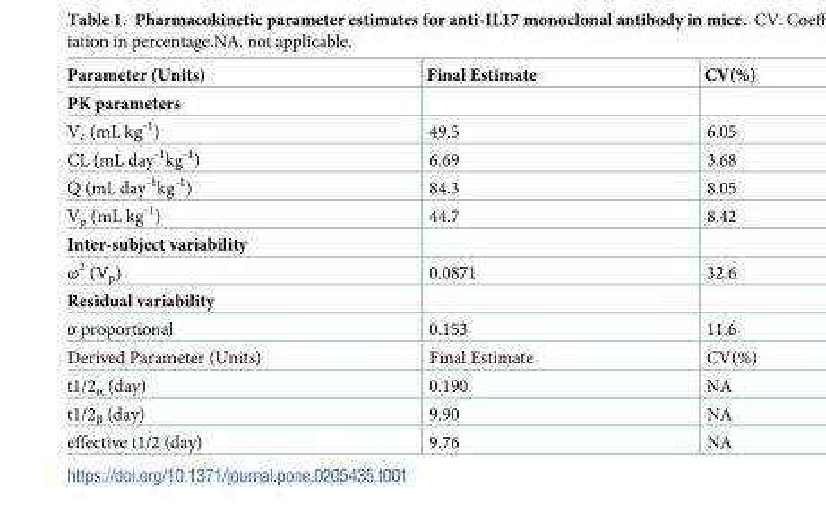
<table><thead><tr><td>Parameter (Units)</td><td>Final Estimate</td><td>CV(%)</td></tr></thead><tbody><tr><td colspan="3">PK parameters</td></tr><tr><td>V<sub>c</sub> (mL kg<sup>-1</sup>)</td><td>49.5</td><td>6.05</td></tr><tr><td>CL (mL day<sup>-1</sup>kg<sup>-1</sup>)</td><td>6.69</td><td>3.68</td></tr><tr><td>Q (mL day<sup>-1</sup>kg<sup>-1</sup>)</td><td>84.3</td><td>8.05</td></tr><tr><td>V<sub>p</sub> (mL kg<sup>-1</sup>)</td><td>44.7</td><td>8.42</td></tr><tr><td colspan="3">Inter-subject variability</td></tr><tr><td>ω<sup>2</sup> (V<sub>p</sub>)</td><td>0.0871</td><td>32.6</td></tr><tr><td colspan="3">Residual variability</td></tr><tr><td>σ proportional</td><td>0.153</td><td>11.6</td></tr><tr><td>Derived Parameter (Units)</td><td>Final Estimate</td><td>CV(%)</td></tr><tr><td>t1/2<sub>α</sub> (day)</td><td>0.190</td><td>NA</td></tr><tr><td>t1/2<sub>β</sub> (day)</td><td>9.90</td><td>NA</td></tr><tr><td>effective t1/2 (day)</td><td>9.76</td><td>NA</td></tr></tbody></table>